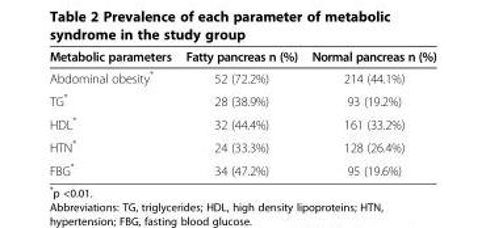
<table><thead><tr><td>Metabolic parameters</td><td>Fatty pancreas n (%)</td><td>Normal pancreas n (%)</td></tr></thead><tbody><tr><td>Abdominal obesity*</td><td>52 (72.2%)</td><td>214 (44.1%)</td></tr><tr><td>TG*</td><td>28 (38.9%)</td><td>93 (19.2%)</td></tr><tr><td>HDL*</td><td>32 (44.4%)</td><td>161 (33.2%)</td></tr><tr><td>HTN*</td><td>24 (33.3%)</td><td>128 (26.4%)</td></tr><tr><td>FBG*</td><td>34 (47.2%)</td><td>95 (19.6%)</td></tr></tbody></table>